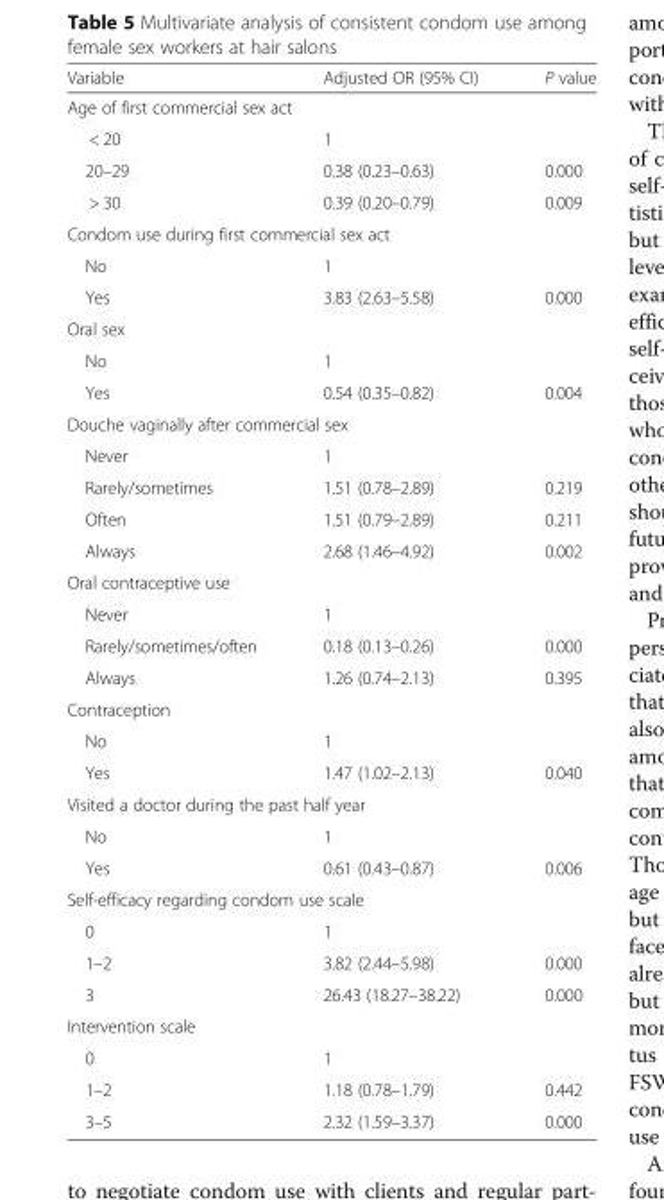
<table><thead><tr><td>Variable</td><td>Adjusted OR (95% CI)</td><td>P value</td></tr></thead><tbody><tr><td colspan="3">Age of first commercial sex act</td></tr><tr><td>&lt; 20</td><td>1</td><td></td></tr><tr><td>20–29</td><td>0.38 (0.23–0.63)</td><td>0.000</td></tr><tr><td>&gt; 30</td><td>0.39 (0.20–0.79)</td><td>0.009</td></tr><tr><td colspan="3">Condom use during first commercial sex act</td></tr><tr><td>No</td><td>1</td><td></td></tr><tr><td>Yes</td><td>3.83 (2.63–5.58)</td><td>0.000</td></tr><tr><td colspan="3">Oral sex</td></tr><tr><td>No</td><td>1</td><td></td></tr><tr><td>Yes</td><td>0.54 (0.35–0.82)</td><td>0.004</td></tr><tr><td colspan="3">Douche vaginally after commercial sex</td></tr><tr><td>Never</td><td>1</td><td></td></tr><tr><td>Rarely/sometimes</td><td>1.51 (0.78–2.89)</td><td>0.219</td></tr><tr><td>Often</td><td>1.51 (0.79–2.89)</td><td>0.211</td></tr><tr><td>Always</td><td>2.68 (1.46–4.92)</td><td>0.002</td></tr><tr><td colspan="3">Oral contraceptive use</td></tr><tr><td>Never</td><td>1</td><td></td></tr><tr><td>Rarely/sometimes/often</td><td>0.18 (0.13–0.26)</td><td>0.000</td></tr><tr><td>Always</td><td>1.26 (0.74–2.13)</td><td>0.395</td></tr><tr><td colspan="3">Contraception</td></tr><tr><td>No</td><td>1</td><td></td></tr><tr><td>Yes</td><td>1.47 (1.02–2.13)</td><td>0.040</td></tr><tr><td colspan="3">Visited a doctor during the past half year</td></tr><tr><td>No</td><td>1</td><td></td></tr><tr><td>Yes</td><td>0.61 (0.43–0.87)</td><td>0.006</td></tr><tr><td colspan="3">Self-efficacy regarding condom use scale</td></tr><tr><td>0</td><td>1</td><td></td></tr><tr><td>1–2</td><td>3.82 (2.44–5.98)</td><td>0.000</td></tr><tr><td>3</td><td>26.43 (18.27–38.22)</td><td>0.000</td></tr><tr><td colspan="3">Intervention scale</td></tr><tr><td>0</td><td>1</td><td></td></tr><tr><td>1–2</td><td>1.18 (0.78–1.79)</td><td>0.442</td></tr><tr><td>3–5</td><td>2.32 (1.59–3.37)</td><td>0.000</td></tr></tbody></table>